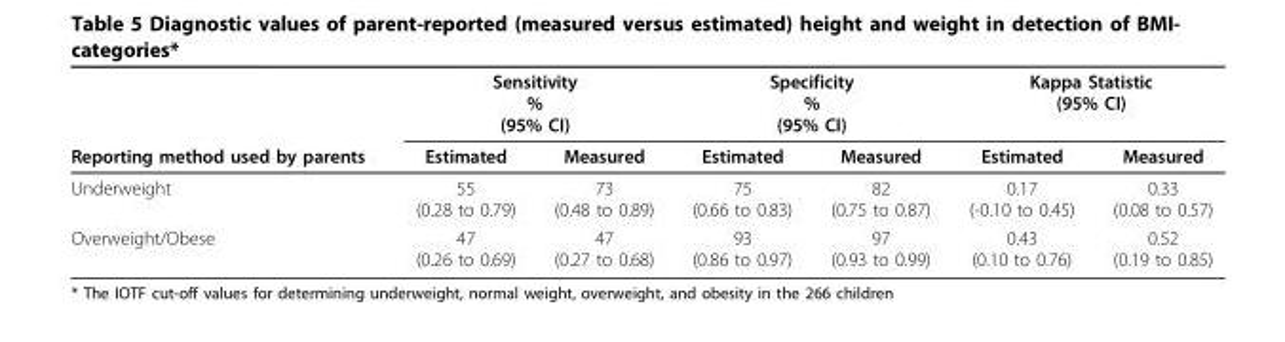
<table><thead><tr><td rowspan="2">Reporting method used by parents</td><td colspan="2">Sensitivity % (95% CI)</td><td colspan="2">Specificity % (95% CI)</td><td colspan="2">Kappa Statistic (95% CI)</td></tr><tr><td>Estimated</td><td>Measured</td><td>Estimated</td><td>Measured</td><td>Estimated</td><td>Measured</td></tr></thead><tbody><tr><td>Underweight</td><td>55 (0.28 to 0.79)</td><td>73 (0.48 to 0.89)</td><td>75 (0.66 to 0.83)</td><td>82 (0.75 to 0.87)</td><td>0.17 (-0.10 to 0.45)</td><td>0.33 (0.08 to 0.57)</td></tr><tr><td>Overweight/Obese</td><td>47 (0.26 to 0.69)</td><td>47 (0.27 to 0.68)</td><td>93 (0.86 to 0.97)</td><td>97 (0.93 to 0.99)</td><td>0.43 (0.10 to 0.76)</td><td>0.52 (0.19 to 0.85)</td></tr></tbody></table>